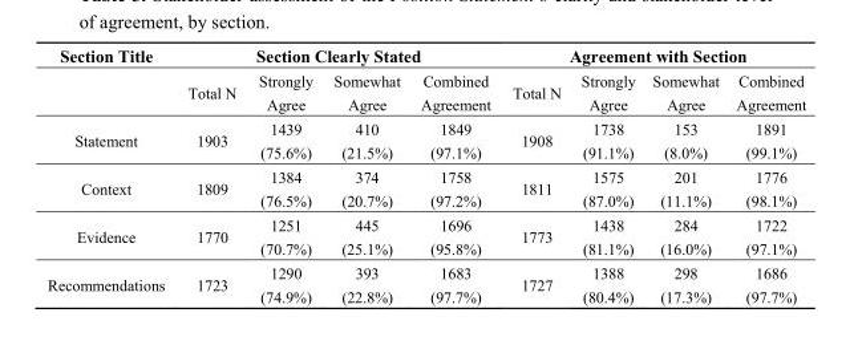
<table><thead><tr><td rowspan="2">Section Title</td><td colspan="4">Section Clearly Stated</td><td colspan="4">Agreement with Section</td></tr><tr><td>Total N</td><td>Strongly Agree</td><td>Somewhat Agree</td><td>Combined Agreement</td><td>Total N</td><td>Strongly Agree</td><td>Somewhat Agree</td><td>Combined Agreement</td></tr></thead><tbody><tr><td>Statement</td><td>1903</td><td>1439 (75.6%)</td><td>410 (21.5%)</td><td>1849 (97.1%)</td><td>1908</td><td>1738 (91.1%)</td><td>153 (8.0%)</td><td>1891 (99.1%)</td></tr><tr><td>Context</td><td>1809</td><td>1384 (76.5%)</td><td>374 (20.7%)</td><td>1758 (97.2%)</td><td>1811</td><td>1575 (87.0%)</td><td>201 (11.1%)</td><td>1776 (98.1%)</td></tr><tr><td>Evidence</td><td>1770</td><td>1251 (70.7%)</td><td>445 (25.1%)</td><td>1696 (95.8%)</td><td>1773</td><td>1438 (81.1%)</td><td>284 (16.0%)</td><td>1722 (97.1%)</td></tr><tr><td>Recommendations</td><td>1723</td><td>1290 (74.9%)</td><td>393 (22.8%)</td><td>1683 (97.7%)</td><td>1727</td><td>1388 (80.4%)</td><td>298 (17.3%)</td><td>1686 (97.7%)</td></tr></tbody></table>